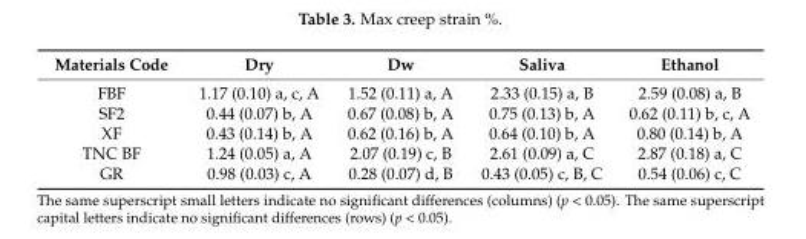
<table><thead><tr><td>Materials Code</td><td>Dry</td><td>Dw</td><td>Saliva</td><td>Ethanol</td></tr></thead><tbody><tr><td>FBF</td><td>1.17 (0.10) a, c, A</td><td>1.52 (0.11) a, A</td><td>2.33 (0.15) a, B</td><td>2.59 (0.08) a, B</td></tr><tr><td>SF2</td><td>0.44 (0.07) b, A</td><td>0.67 (0.08) b, A</td><td>0.75 (0.13) b, A</td><td>0.62 (0.11) b, c, A</td></tr><tr><td>XF</td><td>0.43 (0.14) b, A</td><td>0.62 (0.16) b, A</td><td>0.64 (0.10) b, A</td><td>0.80 (0.14) b, A</td></tr><tr><td>TNC BF</td><td>1.24 (0.05) a, A</td><td>2.07 (0.19) c, B</td><td>2.61 (0.09) a, C</td><td>2.87 (0.18) a, C</td></tr><tr><td>GR</td><td>0.98 (0.03) c, A</td><td>0.28 (0.07) d, B</td><td>0.43 (0.05) c, B, C</td><td>0.54 (0.06) c, C</td></tr></tbody></table>